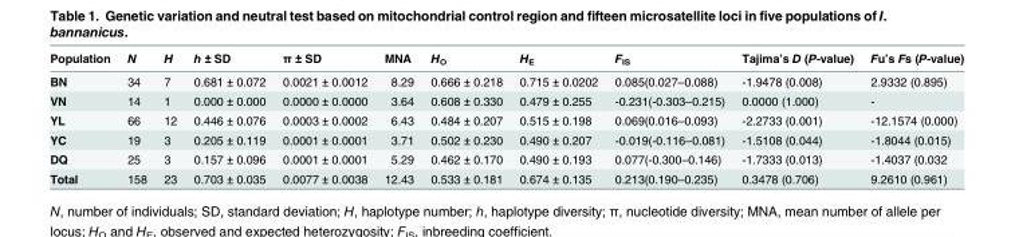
<table><thead><tr><td>Population</td><td>N</td><td>H</td><td>h ± SD</td><td>π ± SD</td><td>MNA</td><td>H<sub>O</sub></td><td>H<sub>E</sub></td><td>F<sub>IS</sub></td><td>Tajima’s D (P-value)</td><td>Fu’s Fs (P-value)</td></tr></thead><tbody><tr><td>BN</td><td>34</td><td>7</td><td>0.681 ± 0.072</td><td>0.0021 ± 0.0012</td><td>8.29</td><td>0.666 ± 0.218</td><td>0.715 ± 0.0202</td><td>0.085(0.027–0.088)</td><td>-1.9478 (0.008)</td><td>2.9332 (0.895)</td></tr><tr><td>VN</td><td>14</td><td>1</td><td>0.000 ± 0.000</td><td>0.0000 ± 0.0000</td><td>3.64</td><td>0.608 ± 0.330</td><td>0.479 ± 0.255</td><td>-0.231(-0.303–0.215)</td><td>0.0000 (1.000)</td><td>-</td></tr><tr><td>YL</td><td>66</td><td>12</td><td>0.446 ± 0.076</td><td>0.0003 ± 0.0002</td><td>6.43</td><td>0.484 ± 0.207</td><td>0.515 ± 0.198</td><td>0.069(0.016–0.093)</td><td>-2.2733 (0.001)</td><td>-12.1574 (0.000)</td></tr><tr><td>YC</td><td>19</td><td>3</td><td>0.205 ± 0.119</td><td>0.0001 ± 0.0001</td><td>3.71</td><td>0.502 ± 0.230</td><td>0.490 ± 0.207</td><td>-0.019(-0.116–0.081)</td><td>-1.5108 (0.044)</td><td>-1.8044 (0.015)</td></tr><tr><td>DQ</td><td>25</td><td>3</td><td>0.157 ± 0.096</td><td>0.0001 ± 0.0001</td><td>5.29</td><td>0.462 ± 0.170</td><td>0.490 ± 0.193</td><td>0.077(-0.300–0.146)</td><td>-1.7333 (0.013)</td><td>-1.4037 (0.032</td></tr><tr><td>Total</td><td>158</td><td>23</td><td>0.703 ± 0.035</td><td>0.0077 ± 0.0038</td><td>12.43</td><td>0.533 ± 0.181</td><td>0.674 ± 0.135</td><td>0.213(0.190–0.235)</td><td>0.3478 (0.706)</td><td>9.2610 (0.961)</td></tr></tbody></table>